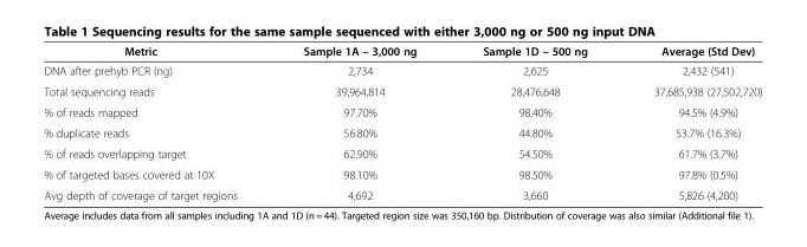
<table><thead><tr><td>Metric</td><td>Sample 1A – 3,000 ng</td><td>Sample 1D – 500 ng</td><td>Average (Std Dev)</td></tr></thead><tbody><tr><td>DNA after prehyb PCR (ng)</td><td>2,734</td><td>2,625</td><td>2,432 (541)</td></tr><tr><td>Total sequencing reads</td><td>39,964,814</td><td>28,476,648</td><td>37,685,938 (27,502,720)</td></tr><tr><td>% of reads mapped</td><td>97.70%</td><td>98.40%</td><td>94.5% (4.9%)</td></tr><tr><td>% duplicate reads</td><td>56.80%</td><td>44.80%</td><td>53.7% (16.3%)</td></tr><tr><td>% of reads overlapping target</td><td>62.90%</td><td>54.50%</td><td>61.7% (3.7%)</td></tr><tr><td>% of targeted bases covered at 10X</td><td>98.10%</td><td>98.50%</td><td>97.8% (0.5%)</td></tr><tr><td>Avg depth of coverage of target regions</td><td>4,692</td><td>3,660</td><td>5,826 (4,200)</td></tr></tbody></table>